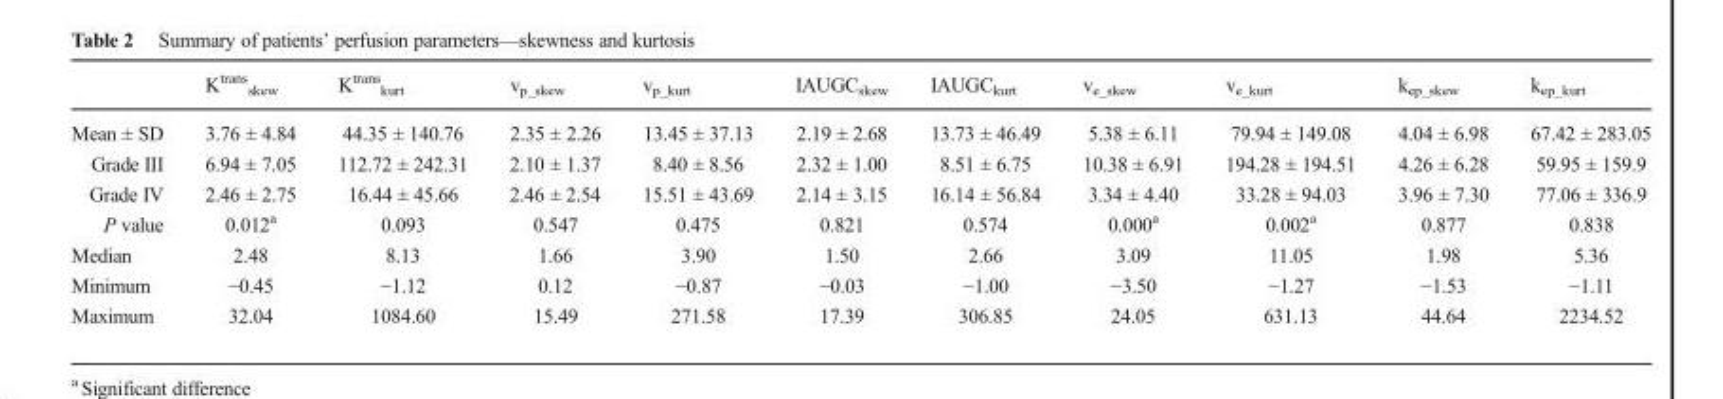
<table><thead><tr><td></td><td>K<sup>trans</sup> <sub>skew</sub></td><td>K<sup>trans</sup> <sub>kurt</sub></td><td>v<sub>p_skew</sub></td><td>v<sub>p_kurt</sub></td><td>IAUGC<sub>skew</sub></td><td>IAUGC<sub>kurt</sub></td><td>v<sub>e_skew</sub></td><td>v<sub>e_kurt</sub></td><td>k<sub>ep_skew</sub></td><td>k<sub>ep_kurt</sub></td></tr></thead><tbody><tr><td>Mean ± SD</td><td>3.76 ± 4.84</td><td>44.35 ± 140.76</td><td>2.35 ± 2.26</td><td>13.45 ± 37.13</td><td>2.19 ± 2.68</td><td>13.73 ± 46.49</td><td>5.38 ± 6.11</td><td>79.94 ± 149.08</td><td>4.04 ± 6.98</td><td>67.42 ± 283.05</td></tr><tr><td>Grade III</td><td>6.94 ± 7.05</td><td>112.72 ± 242.31</td><td>2.10 ± 1.37</td><td>8.40 ± 8.56</td><td>2.32 ± 1.00</td><td>8.51 ± 6.75</td><td>10.38 ± 6.91</td><td>194.28 ± 194.51</td><td>4.26 ± 6.28</td><td>59.95 ± 159.9</td></tr><tr><td>Grade IV</td><td>2.46 ± 2.75</td><td>16.44 ± 45.66</td><td>2.46 ± 2.54</td><td>15.51 ± 43.69</td><td>2.14 ± 3.15</td><td>16.14 ± 56.84</td><td>3.34 ± 4.40</td><td>33.28 ± 94.03</td><td>3.96 ± 7.30</td><td>77.06 ± 336.9</td></tr><tr><td>P value</td><td>0.012<sup>a</sup></td><td>0.093</td><td>0.547</td><td>0.475</td><td>0.821</td><td>0.574</td><td>0.000<sup>a</sup></td><td>0.002<sup>a</sup></td><td>0.877</td><td>0.838</td></tr><tr><td>Median</td><td>2.48</td><td>8.13</td><td>1.66</td><td>3.90</td><td>1.50</td><td>2.66</td><td>3.09</td><td>11.05</td><td>1.98</td><td>5.36</td></tr><tr><td>Minimum</td><td>−0.45</td><td>−1.12</td><td>0.12</td><td>−0.87</td><td>−0.03</td><td>−1.00</td><td>−3.50</td><td>−1.27</td><td>−1.53</td><td>−1.11</td></tr><tr><td>Maximum</td><td>32.04</td><td>1084.60</td><td>15.49</td><td>271.58</td><td>17.39</td><td>306.85</td><td>24.05</td><td>631.13</td><td>44.64</td><td>2234.52</td></tr></tbody></table>